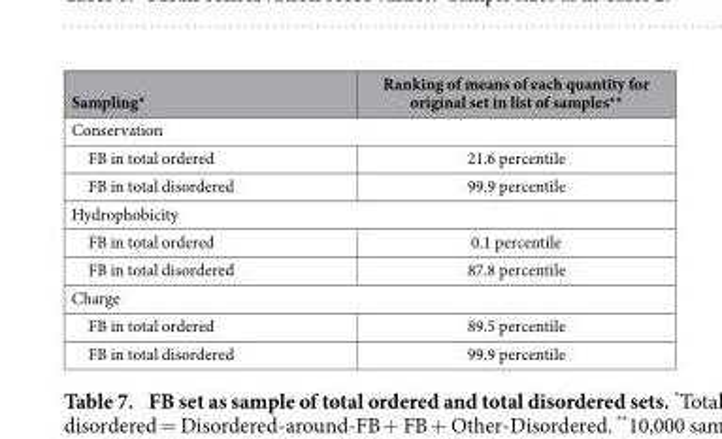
<table><thead><tr><td>Sampling*</td><td>Ranking of means of each quantity for original set in list of samples**</td></tr></thead><tbody><tr><td colspan="2">Conservation</td></tr><tr><td>FB in total ordered</td><td>21.6 percentile</td></tr><tr><td>FB in total disordered</td><td>99.9 percentile</td></tr><tr><td colspan="2">Hydrophobicity</td></tr><tr><td>FB in total ordered</td><td>0.1 percentile</td></tr><tr><td>FB in total disordered</td><td>87.8 percentile</td></tr><tr><td colspan="2">Charge</td></tr><tr><td>FB in total ordered</td><td>89.5 percentile</td></tr><tr><td>FB in total disordered</td><td>99.9 percentile</td></tr></tbody></table>